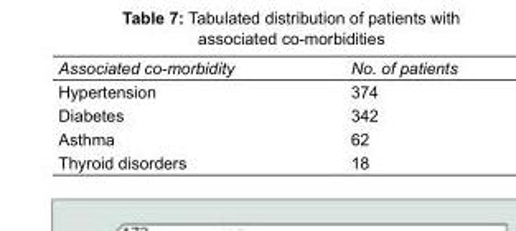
<table><tbody><tr><td>Associated co-morbidity</td><td>No. of patients</td></tr><tr><td>Hypertension</td><td>374</td></tr><tr><td>Diabetes</td><td>342</td></tr><tr><td>Asthma</td><td>62</td></tr><tr><td>Thyroid disorders</td><td>18</td></tr></tbody></table>